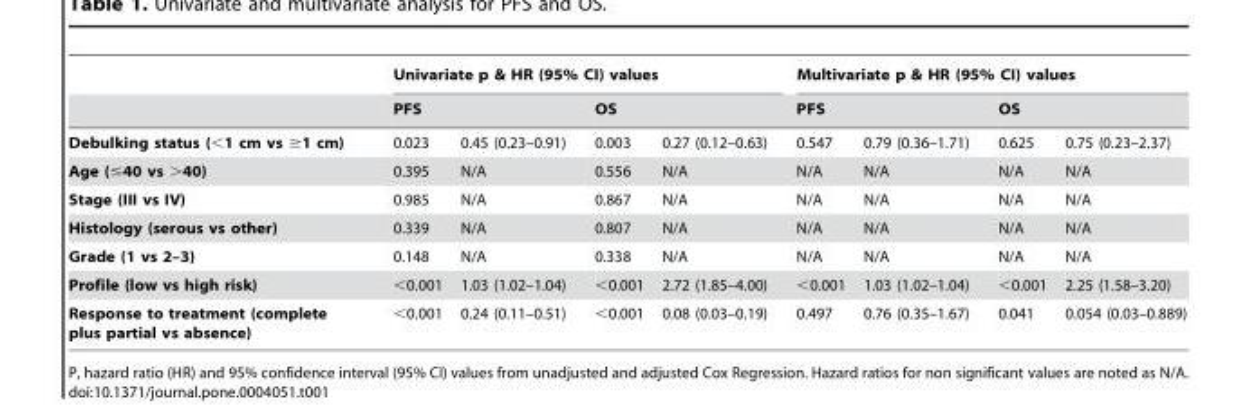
<table><thead><tr><td rowspan="3">Debulking status (&lt;1 cm vs ≥1 cm)</td><td colspan="4">Univariate p &amp; HR (95% CI) values</td><td colspan="4">Multivariate p &amp; HR (95% CI) values</td></tr><tr><td colspan="2">PFS</td><td colspan="2">OS</td><td colspan="2">PFS</td><td colspan="2">OS</td></tr><tr><td>0.023</td><td>0.45 (0.23–0.91)</td><td>0.003</td><td>0.27 (0.12–0.63)</td><td>0.547</td><td>0.79 (0.36–1.71)</td><td>0.625</td><td>0.75 (0.23–2.37)</td></tr></thead><tbody><tr><td>Age (≤40 vs &gt;40)</td><td>0.395</td><td>N/A</td><td>0.556</td><td>N/A</td><td>N/A</td><td>N/A</td><td>N/A</td><td>N/A</td></tr><tr><td>Stage (III vs IV)</td><td>0.985</td><td>N/A</td><td>0.867</td><td>N/A</td><td>N/A</td><td>N/A</td><td>N/A</td><td>N/A</td></tr><tr><td>Histology (serous vs other)</td><td>0.339</td><td>N/A</td><td>0.807</td><td>N/A</td><td>N/A</td><td>N/A</td><td>N/A</td><td>N/A</td></tr><tr><td>Grade (1 vs 2–3)</td><td>0.148</td><td>N/A</td><td>0.338</td><td>N/A</td><td>N/A</td><td>N/A</td><td>N/A</td><td>N/A</td></tr><tr><td>Profile (low vs high risk)</td><td>&lt;0.001</td><td>1.03 (1.02–1.04)</td><td>&lt;0.001</td><td>2.72 (1.85–4.00)</td><td>&lt;0.001</td><td>1.03 (1.02–1.04)</td><td>&lt;0.001</td><td>2.25 (1.58–3.20)</td></tr><tr><td>Response to treatment (complete plus partial vs absence)</td><td>&lt;0.001</td><td>0.24 (0.11–0.51)</td><td>&lt;0.001</td><td>0.08 (0.03–0.19)</td><td>0.497</td><td>0.76 (0.35–1.67)</td><td>0.041</td><td>0.054 (0.03–0.889)</td></tr></tbody></table>